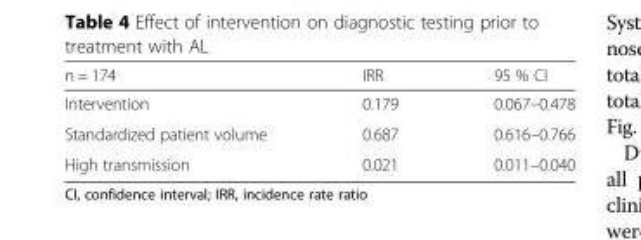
<table><thead><tr><td>n = 174</td><td>IRR</td><td>95 % CI</td></tr></thead><tbody><tr><td>Intervention</td><td>0.179</td><td>0.067–0.478</td></tr><tr><td>Standardized patient volume</td><td>0.687</td><td>0.616–0.766</td></tr><tr><td>High transmission</td><td>0.021</td><td>0.011–0.040</td></tr></tbody></table>